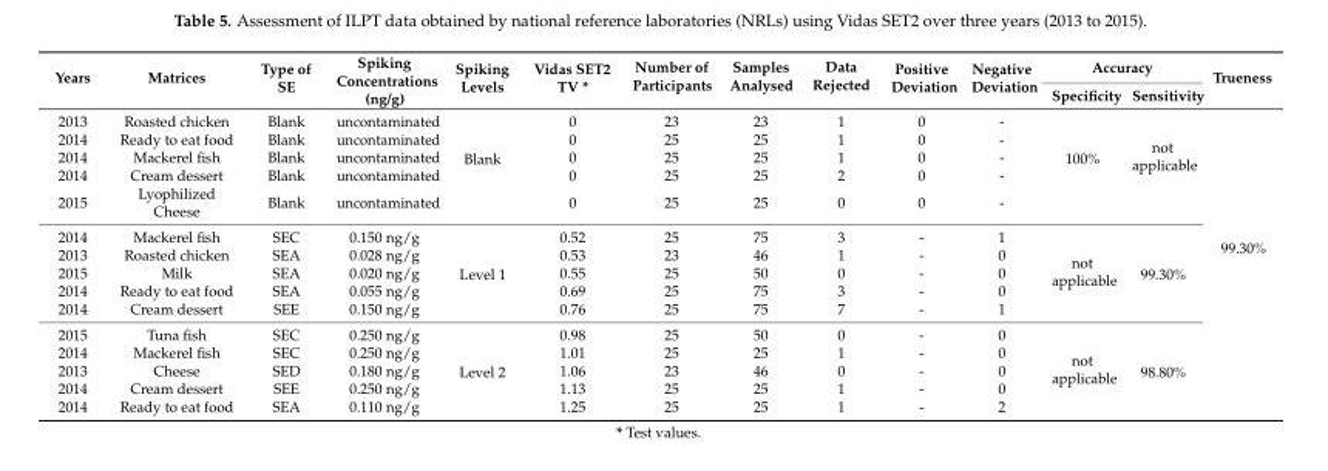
<table><thead><tr><td rowspan="2">Years</td><td rowspan="2">Matrices</td><td rowspan="2">Type of SE</td><td rowspan="2">Spiking Concentrations (ng/g)</td><td rowspan="2">Spiking Levels</td><td rowspan="2">Vidas SET2 TV *</td><td rowspan="2">Number of Participants</td><td rowspan="2">Samples Analysed</td><td rowspan="2">Data Rejected</td><td rowspan="2">Positive Deviation</td><td rowspan="2">Negative Deviation</td><td colspan="2">Accuracy</td><td rowspan="2">Trueness</td></tr><tr><td>Specificity</td><td>Sensitivity</td></tr></thead><tbody><tr><td>2013</td><td>Roasted chicken</td><td>Blank</td><td>uncontaminated</td><td rowspan="5">Blank</td><td>0</td><td>23</td><td>23</td><td>1</td><td>0</td><td>-</td><td rowspan="5">100%</td><td rowspan="5">not applicable</td><td rowspan="15">99.30%</td></tr><tr><td>2014</td><td>Ready to eat food</td><td>Blank</td><td>uncontaminated</td><td>0</td><td>25</td><td>25</td><td>1</td><td>0</td><td>-</td></tr><tr><td>2014</td><td>Mackerel fish</td><td>Blank</td><td>uncontaminated</td><td>0</td><td>25</td><td>25</td><td>1</td><td>0</td><td>-</td></tr><tr><td>2014</td><td>Cream dessert</td><td>Blank</td><td>uncontaminated</td><td>0</td><td>25</td><td>25</td><td>2</td><td>0</td><td>-</td></tr><tr><td>2015</td><td>Lyophilized Cheese</td><td>Blank</td><td>uncontaminated</td><td>0</td><td>25</td><td>25</td><td>0</td><td>0</td><td>-</td></tr><tr><td>2014</td><td>Mackerel fish</td><td>SEC</td><td>0.150 ng/g</td><td rowspan="5">Level 1</td><td>0.52</td><td>25</td><td>75</td><td>3</td><td>-</td><td>1</td><td rowspan="5">not applicable</td><td rowspan="5">99.30%</td></tr><tr><td>2013</td><td>Roasted chicken</td><td>SEA</td><td>0.028 ng/g</td><td>0.53</td><td>23</td><td>46</td><td>1</td><td>-</td><td>0</td></tr><tr><td>2015</td><td>Milk</td><td>SEA</td><td>0.020 ng/g</td><td>0.55</td><td>25</td><td>50</td><td>0</td><td>-</td><td>0</td></tr><tr><td>2014</td><td>Ready to eat food</td><td>SEA</td><td>0.055 ng/g</td><td>0.69</td><td>25</td><td>75</td><td>3</td><td>-</td><td>0</td></tr><tr><td>2014</td><td>Cream dessert</td><td>SEE</td><td>0.150 ng/g</td><td>0.76</td><td>25</td><td>75</td><td>7</td><td>-</td><td>1</td></tr><tr><td>2015</td><td>Tuna fish</td><td>SEC</td><td>0.250 ng/g</td><td rowspan="5">Level 2</td><td>0.98</td><td>25</td><td>50</td><td>0</td><td>-</td><td>0</td><td rowspan="5">not applicable</td><td rowspan="5">98.80%</td></tr><tr><td>2014</td><td>Mackerel fish</td><td>SEC</td><td>0.250 ng/g</td><td>1.01</td><td>25</td><td>25</td><td>1</td><td>-</td><td>0</td></tr><tr><td>2013</td><td>Cheese</td><td>SED</td><td>0.180 ng/g</td><td>1.06</td><td>23</td><td>46</td><td>0</td><td>-</td><td>0</td></tr><tr><td>2014</td><td>Cream dessert</td><td>SEE</td><td>0.250 ng/g</td><td>1.13</td><td>25</td><td>25</td><td>1</td><td>-</td><td>0</td></tr><tr><td>2014</td><td>Ready to eat food</td><td>SEA</td><td>0.110 ng/g</td><td>1.25</td><td>25</td><td>25</td><td>1</td><td>-</td><td>2</td></tr></tbody></table>